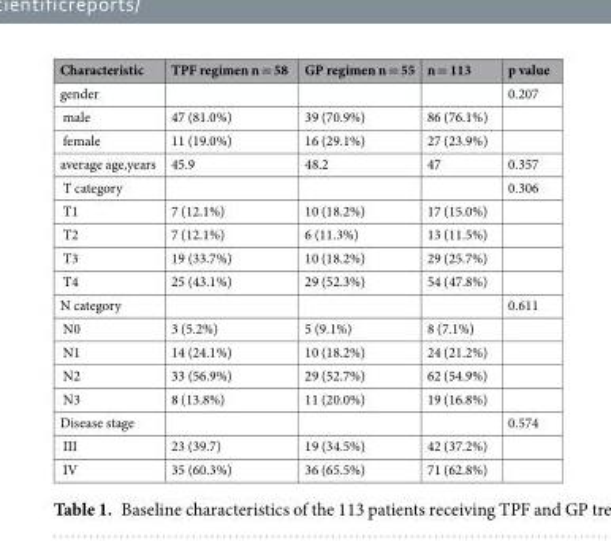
<table><thead><tr><td>Characteristic</td><td>TPF regimen n = 58</td><td>GP regimen n = 55</td><td>n = 113</td><td>p value</td></tr></thead><tbody><tr><td>gender</td><td></td><td></td><td></td><td>0.207</td></tr><tr><td>male</td><td>47 (81.0%)</td><td>39 (70.9%)</td><td>86 (76.1%)</td><td></td></tr><tr><td>female</td><td>11 (19.0%)</td><td>16 (29.1%)</td><td>27 (23.9%)</td><td></td></tr><tr><td>average age,years</td><td>45.9</td><td>48.2</td><td>47</td><td>0.357</td></tr><tr><td>T category</td><td></td><td></td><td></td><td>0.306</td></tr><tr><td>T1</td><td>7 (12.1%)</td><td>10 (18.2%)</td><td>17 (15.0%)</td><td></td></tr><tr><td>T2</td><td>7 (12.1%)</td><td>6 (11.3%)</td><td>13 (11.5%)</td><td></td></tr><tr><td>T3</td><td>19 (33.7%)</td><td>10 (18.2%)</td><td>29 (25.7%)</td><td></td></tr><tr><td>T4</td><td>25 (43.1%)</td><td>29 (52.3%)</td><td>54 (47.8%)</td><td></td></tr><tr><td>N category</td><td></td><td></td><td></td><td>0.611</td></tr><tr><td>N0</td><td>3 (5.2%)</td><td>5 (9.1%)</td><td>8 (7.1%)</td><td></td></tr><tr><td>N1</td><td>14 (24.1%)</td><td>10 (18.2%)</td><td>24 (21.2%)</td><td></td></tr><tr><td>N2</td><td>33 (56.9%)</td><td>29 (52.7%)</td><td>62 (54.9%)</td><td></td></tr><tr><td>N3</td><td>8 (13.8%)</td><td>11 (20.0%)</td><td>19 (16.8%)</td><td></td></tr><tr><td>Disease stage</td><td></td><td></td><td></td><td>0.574</td></tr><tr><td>III</td><td>23 (39.7)</td><td>19 (34.5%)</td><td>42 (37.2%)</td><td></td></tr><tr><td>IV</td><td>35 (60.3%)</td><td>36 (65.5%)</td><td>71 (62.8%)</td><td></td></tr></tbody></table>